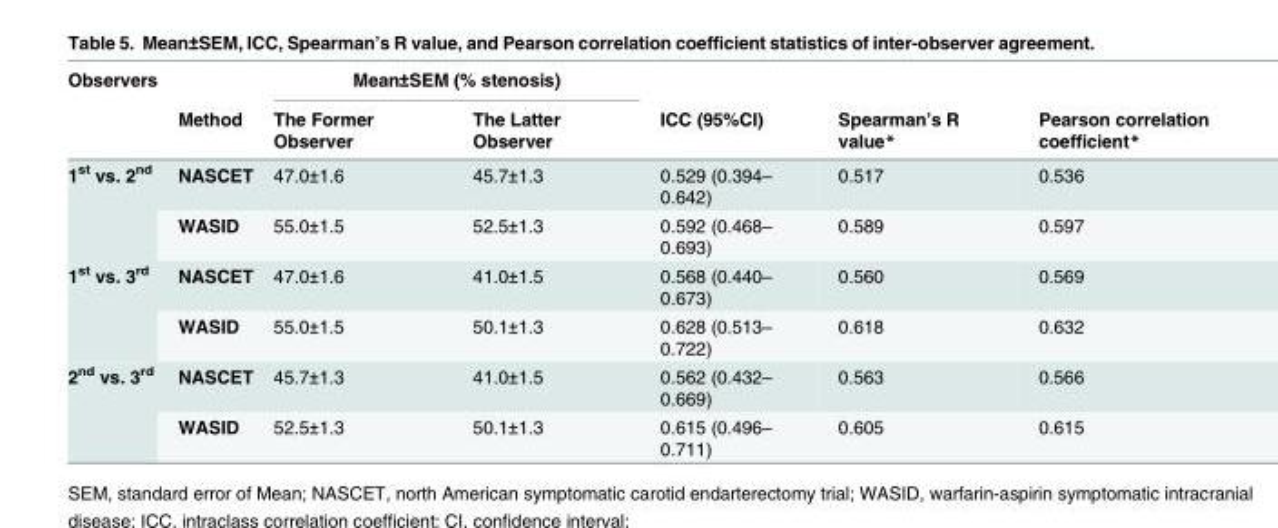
<table><thead><tr><td rowspan="2">Observers</td><td rowspan="2">Method</td><td colspan="2">Mean±SEM (% stenosis)</td><td rowspan="2">ICC (95%CI)</td><td rowspan="2">Spearman’s R value*</td><td rowspan="2">Pearson correlation coefficient*</td></tr><tr><td>The Former Observer</td><td>The Latter Observer</td></tr></thead><tbody><tr><td rowspan="2">1<sup>st</sup> vs. 2<sup>nd</sup></td><td>NASCET</td><td>47.0±1.6</td><td>45.7±1.3</td><td>0.529 (0.394– 0.642)</td><td>0.517</td><td>0.536</td></tr><tr><td>WASID</td><td>55.0±1.5</td><td>52.5±1.3</td><td>0.592 (0.468– 0.693)</td><td>0.589</td><td>0.597</td></tr><tr><td rowspan="2">1<sup>st</sup> vs. 3<sup>rd</sup></td><td>NASCET</td><td>47.0±1.6</td><td>41.0±1.5</td><td>0.568 (0.440– 0.673)</td><td>0.560</td><td>0.569</td></tr><tr><td>WASID</td><td>55.0±1.5</td><td>50.1±1.3</td><td>0.628 (0.513– 0.722)</td><td>0.618</td><td>0.632</td></tr><tr><td rowspan="2">2<sup>nd</sup> vs. 3<sup>rd</sup></td><td>NASCET</td><td>45.7±1.3</td><td>41.0±1.5</td><td>0.562 (0.432– 0.669)</td><td>0.563</td><td>0.566</td></tr><tr><td>WASID</td><td>52.5±1.3</td><td>50.1±1.3</td><td>0.615 (0.496– 0.711)</td><td>0.605</td><td>0.615</td></tr></tbody></table>